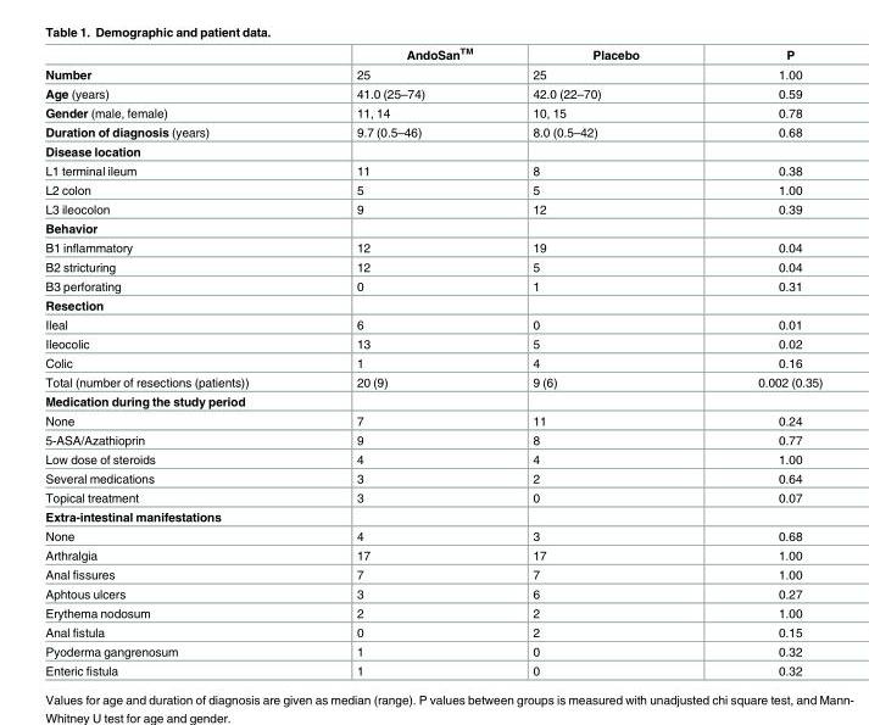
<table><thead><tr><td></td><td>AndoSan<sup>TM</sup></td><td>Placebo</td><td>P</td></tr></thead><tbody><tr><td>Number</td><td>25</td><td>25</td><td>1.00</td></tr><tr><td>Age (years)</td><td>41.0 (25–74)</td><td>42.0 (22–70)</td><td>0.59</td></tr><tr><td>Gender (male, female)</td><td>11, 14</td><td>10, 15</td><td>0.78</td></tr><tr><td>Duration of diagnosis (years)</td><td>9.7 (0.5–46)</td><td>8.0 (0.5–42)</td><td>0.68</td></tr><tr><td colspan="4">Disease location</td></tr><tr><td>L1 terminal ileum</td><td>11</td><td>8</td><td>0.38</td></tr><tr><td>L2 colon</td><td>5</td><td>5</td><td>1.00</td></tr><tr><td>L3 ileocolon</td><td>9</td><td>12</td><td>0.39</td></tr><tr><td colspan="4">Behavior</td></tr><tr><td>B1 inflammatory</td><td>12</td><td>19</td><td>0.04</td></tr><tr><td>B2 stricturing</td><td>12</td><td>5</td><td>0.04</td></tr><tr><td>B3 perforating</td><td>0</td><td>1</td><td>0.31</td></tr><tr><td colspan="4">Resection</td></tr><tr><td>Ileal</td><td>6</td><td>0</td><td>0.01</td></tr><tr><td>Ileocolic</td><td>13</td><td>5</td><td>0.02</td></tr><tr><td>Colic</td><td>1</td><td>4</td><td>0.16</td></tr><tr><td>Total (number of resections (patients))</td><td>20 (9)</td><td>9 (6)</td><td>0.002 (0.35)</td></tr><tr><td colspan="4">Medication during the study period</td></tr><tr><td>None</td><td>7</td><td>11</td><td>0.24</td></tr><tr><td>5-ASA/Azathioprin</td><td>9</td><td>8</td><td>0.77</td></tr><tr><td>Low dose of steroids</td><td>4</td><td>4</td><td>1.00</td></tr><tr><td>Several medications</td><td>3</td><td>2</td><td>0.64</td></tr><tr><td>Topical treatment</td><td>3</td><td>0</td><td>0.07</td></tr><tr><td colspan="4">Extra-intestinal manifestations</td></tr><tr><td>None</td><td>4</td><td>3</td><td>0.68</td></tr><tr><td>Arthralgia</td><td>17</td><td>17</td><td>1.00</td></tr><tr><td>Anal fissures</td><td>7</td><td>7</td><td>1.00</td></tr><tr><td>Aphtous ulcers</td><td>3</td><td>6</td><td>0.27</td></tr><tr><td>Erythema nodosum</td><td>2</td><td>2</td><td>1.00</td></tr><tr><td>Anal fistula</td><td>0</td><td>2</td><td>0.15</td></tr><tr><td>Pyoderma gangrenosum</td><td>1</td><td>0</td><td>0.32</td></tr><tr><td>Enteric fistula</td><td>1</td><td>0</td><td>0.32</td></tr></tbody></table>